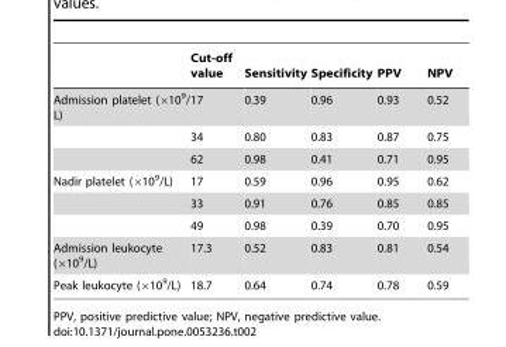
<table><thead><tr><td></td><td>Cut-off value</td><td>Sensitivity</td><td>Specificity</td><td>PPV</td><td>NPV</td></tr></thead><tbody><tr><td rowspan="3">Admission platelet (×10<sup>9</sup>/ L)</td><td>17</td><td>0.39</td><td>0.96</td><td>0.93</td><td>0.52</td></tr><tr><td>34</td><td>0.80</td><td>0.83</td><td>0.87</td><td>0.75</td></tr><tr><td>62</td><td>0.98</td><td>0.41</td><td>0.71</td><td>0.95</td></tr><tr><td rowspan="3">Nadir platelet (×10<sup>9</sup>/L)</td><td>17</td><td>0.59</td><td>0.96</td><td>0.95</td><td>0.62</td></tr><tr><td>33</td><td>0.91</td><td>0.76</td><td>0.85</td><td>0.85</td></tr><tr><td>49</td><td>0.98</td><td>0.39</td><td>0.70</td><td>0.95</td></tr><tr><td>Admission leukocyte (×10<sup>9</sup>/L)</td><td>17.3</td><td>0.52</td><td>0.83</td><td>0.81</td><td>0.54</td></tr><tr><td>Peak leukocyte (×10<sup>9</sup>/L)</td><td>18.7</td><td>0.64</td><td>0.74</td><td>0.78</td><td>0.59</td></tr></tbody></table>